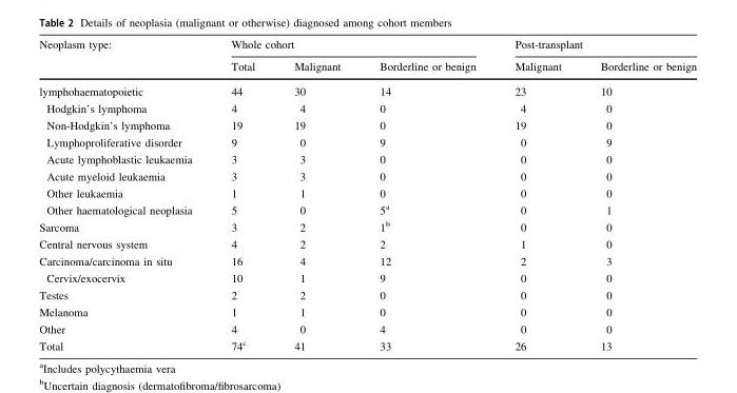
<table><thead><tr><td rowspan="2">Neoplasm type:</td><td colspan="3">Whole cohort</td><td colspan="2">Post-transplant</td></tr><tr><td>Total</td><td>Malignant</td><td>Borderline or benign</td><td>Malignant</td><td>Borderline or benign</td></tr></thead><tbody><tr><td>lymphohaematopoietic</td><td>44</td><td>30</td><td>14</td><td>23</td><td>10</td></tr><tr><td>Hodgkin’s lymphoma</td><td>4</td><td>4</td><td>0</td><td>4</td><td>0</td></tr><tr><td>Non-Hodgkin’s lymphoma</td><td>19</td><td>19</td><td>0</td><td>19</td><td>0</td></tr><tr><td>Lymphoproliferative disorder</td><td>9</td><td>0</td><td>9</td><td>0</td><td>9</td></tr><tr><td>Acute lymphoblastic leukaemia</td><td>3</td><td>3</td><td>0</td><td>0</td><td>0</td></tr><tr><td>Acute myeloid leukaemia</td><td>3</td><td>3</td><td>0</td><td>0</td><td>0</td></tr><tr><td>Other leukaemia</td><td>1</td><td>1</td><td>0</td><td>0</td><td>0</td></tr><tr><td>Other haematological neoplasia</td><td>5</td><td>0</td><td>5<sup>a</sup></td><td>0</td><td>1</td></tr><tr><td>Sarcoma</td><td>3</td><td>2</td><td>1<sup>b</sup></td><td>0</td><td>0</td></tr><tr><td>Central nervous system</td><td>4</td><td>2</td><td>2</td><td>1</td><td>0</td></tr><tr><td>Carcinoma/carcinoma in situ</td><td>16</td><td>4</td><td>12</td><td>2</td><td>3</td></tr><tr><td>Cervix/exocervix</td><td>10</td><td>1</td><td>9</td><td>0</td><td>0</td></tr><tr><td>Testes</td><td>2</td><td>2</td><td>0</td><td>0</td><td>0</td></tr><tr><td>Melanoma</td><td>1</td><td>1</td><td>0</td><td>0</td><td>0</td></tr><tr><td>Other</td><td>4</td><td>0</td><td>4</td><td>0</td><td>0</td></tr><tr><td>Total</td><td>74<sup>c</sup></td><td>41</td><td>33</td><td>26</td><td>13</td></tr></tbody></table>